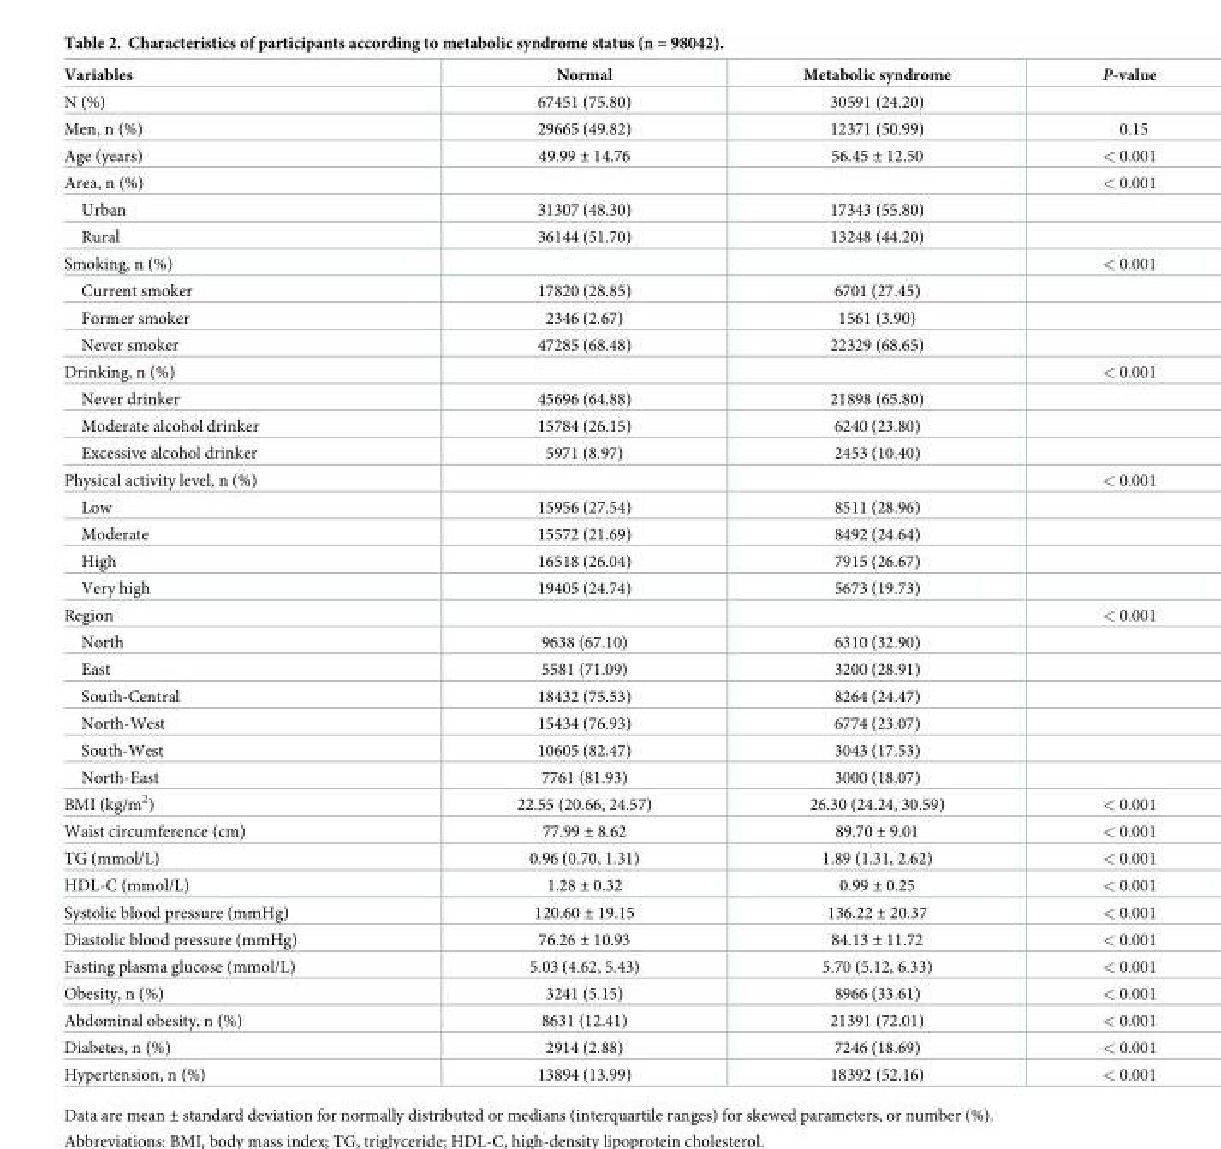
<table><thead><tr><td>Variables</td><td>Normal</td><td>Metabolic syndrome</td><td>P-value</td></tr></thead><tbody><tr><td>N (%)</td><td>67451 (75.80)</td><td>30591 (24.20)</td><td></td></tr><tr><td>Men, n (%)</td><td>29665 (49.82)</td><td>12371 (50.99)</td><td>0.15</td></tr><tr><td>Age (years)</td><td>49.99 ± 14.76</td><td>56.45 ± 12.50</td><td>&lt; 0.001</td></tr><tr><td>Area, n (%)</td><td></td><td></td><td>&lt; 0.001</td></tr><tr><td>Urban</td><td>31307 (48.30)</td><td>17343 (55.80)</td><td></td></tr><tr><td>Rural</td><td>36144 (51.70)</td><td>13248 (44.20)</td><td></td></tr><tr><td>Smoking, n (%)</td><td></td><td></td><td>&lt; 0.001</td></tr><tr><td>Current smoker</td><td>17820 (28.85)</td><td>6701 (27.45)</td><td></td></tr><tr><td>Former smoker</td><td>2346 (2.67)</td><td>1561 (3.90)</td><td></td></tr><tr><td>Never smoker</td><td>47285 (68.48)</td><td>22329 (68.65)</td><td></td></tr><tr><td>Drinking, n (%)</td><td></td><td></td><td>&lt; 0.001</td></tr><tr><td>Never drinker</td><td>45696 (64.88)</td><td>21898 (65.80)</td><td></td></tr><tr><td>Moderate alcohol drinker</td><td>15784 (26.15)</td><td>6240 (23.80)</td><td></td></tr><tr><td>Excessive alcohol drinker</td><td>5971 (8.97)</td><td>2453 (10.40)</td><td></td></tr><tr><td>Physical activity level, n (%)</td><td></td><td></td><td>&lt; 0.001</td></tr><tr><td>Low</td><td>15956 (27.54)</td><td>8511 (28.96)</td><td></td></tr><tr><td>Moderate</td><td>15572 (21.69)</td><td>8492 (24.64)</td><td></td></tr><tr><td>High</td><td>16518 (26.04)</td><td>7915 (26.67)</td><td></td></tr><tr><td>Very high</td><td>19405 (24.74)</td><td>5673 (19.73)</td><td></td></tr><tr><td>Region</td><td></td><td></td><td>&lt; 0.001</td></tr><tr><td>North</td><td>9638 (67.10)</td><td>6310 (32.90)</td><td></td></tr><tr><td>East</td><td>5581 (71.09)</td><td>3200 (28.91)</td><td></td></tr><tr><td>South-Central</td><td>18432 (75.53)</td><td>8264 (24.47)</td><td></td></tr><tr><td>North-West</td><td>15434 (76.93)</td><td>6774 (23.07)</td><td></td></tr><tr><td>South-West</td><td>10605 (82.47)</td><td>3043 (17.53)</td><td></td></tr><tr><td>North-East</td><td>7761 (81.93)</td><td>3000 (18.07)</td><td></td></tr><tr><td>BMI (kg/m<sup>2</sup>)</td><td>22.55 (20.66, 24.57)</td><td>26.30 (24.24, 30.59)</td><td>&lt; 0.001</td></tr><tr><td>Waist circumference (cm)</td><td>77.99 ± 8.62</td><td>89.70 ± 9.01</td><td>&lt; 0.001</td></tr><tr><td>TG (mmol/L)</td><td>0.96 (0.70, 1.31)</td><td>1.89 (1.31, 2.62)</td><td>&lt; 0.001</td></tr><tr><td>HDL-C (mmol/L)</td><td>1.28 ± 0.32</td><td>0.99 ± 0.25</td><td>&lt; 0.001</td></tr><tr><td>Systolic blood pressure (mmHg)</td><td>120.60 ± 19.15</td><td>136.22 ± 20.37</td><td>&lt; 0.001</td></tr><tr><td>Diastolic blood pressure (mmHg)</td><td>76.26 ± 10.93</td><td>84.13 ± 11.72</td><td>&lt; 0.001</td></tr><tr><td>Fasting plasma glucose (mmol/L)</td><td>5.03 (4.62, 5.43)</td><td>5.70 (5.12, 6.33)</td><td>&lt; 0.001</td></tr><tr><td>Obesity, n (%)</td><td>3241 (5.15)</td><td>8966 (33.61)</td><td>&lt; 0.001</td></tr><tr><td>Abdominal obesity, n (%)</td><td>8631 (12.41)</td><td>21391 (72.01)</td><td>&lt; 0.001</td></tr><tr><td>Diabetes, n (%)</td><td>2914 (2.88)</td><td>7246 (18.69)</td><td>&lt; 0.001</td></tr><tr><td>Hypertension, n (%)</td><td>13894 (13.99)</td><td>18392 (52.16)</td><td>&lt; 0.001</td></tr></tbody></table>